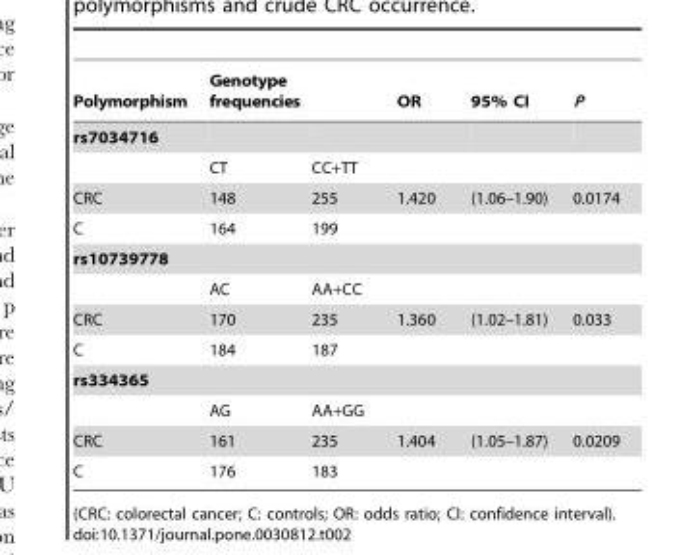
<table><thead><tr><td rowspan="2">Polymorphism rs7034716</td><td colspan="2">Genotype frequencies</td><td rowspan="2">OR</td><td rowspan="2">95% CI</td><td rowspan="2">P</td></tr><tr><td></td><td></td></tr></thead><tbody><tr><td></td><td>CT</td><td>CC+TT</td><td></td><td></td><td></td></tr><tr><td>CRC</td><td>148</td><td>255</td><td>1.420</td><td>(1.06–1.90)</td><td>0.0174</td></tr><tr><td>C</td><td>164</td><td>199</td><td></td><td></td><td></td></tr><tr><td colspan="6">rs10739778</td></tr><tr><td></td><td>AC</td><td>AA+CC</td><td></td><td></td><td></td></tr><tr><td>CRC</td><td>170</td><td>235</td><td>1.360</td><td>(1.02–1.81)</td><td>0.033</td></tr><tr><td>C</td><td>184</td><td>187</td><td></td><td></td><td></td></tr><tr><td colspan="6">rs334365</td></tr><tr><td></td><td>AG</td><td>AA+GG</td><td></td><td></td><td></td></tr><tr><td>CRC</td><td>161</td><td>235</td><td>1.404</td><td>(1.05–1.87)</td><td>0.0209</td></tr><tr><td>C</td><td>176</td><td>183</td><td></td><td></td><td></td></tr></tbody></table>